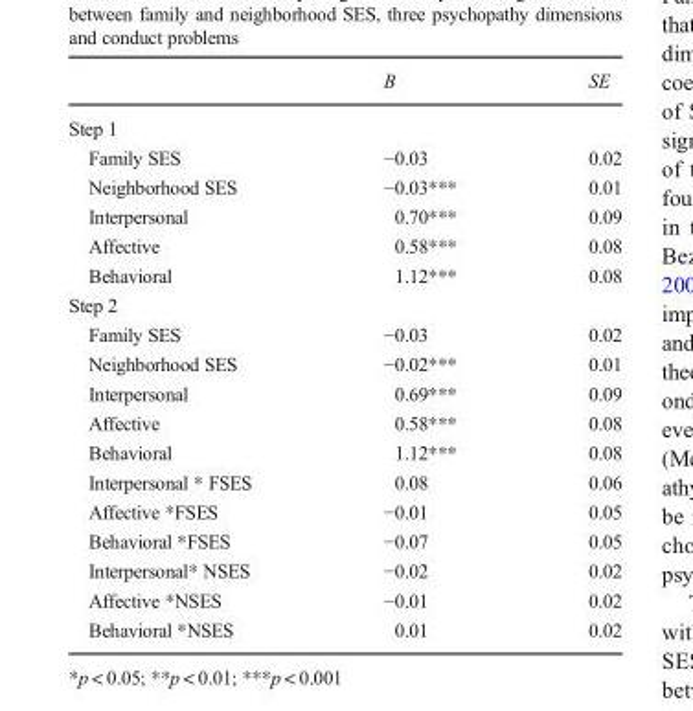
<table><thead><tr><td></td><td>B</td><td>SE</td></tr></thead><tbody><tr><td colspan="3">Step 1</td></tr><tr><td>Family SES</td><td>−0.03</td><td>0.02</td></tr><tr><td>Neighborhood SES</td><td>−0.03***</td><td>0.01</td></tr><tr><td>Interpersonal</td><td>0.70***</td><td>0.09</td></tr><tr><td>Affective</td><td>0.58***</td><td>0.08</td></tr><tr><td>Behavioral</td><td>1.12***</td><td>0.08</td></tr><tr><td colspan="3">Step 2</td></tr><tr><td>Family SES</td><td>−0.03</td><td>0.02</td></tr><tr><td>Neighborhood SES</td><td>−0.02***</td><td>0.01</td></tr><tr><td>Interpersonal</td><td>0.69***</td><td>0.09</td></tr><tr><td>Affective</td><td>0.58***</td><td>0.08</td></tr><tr><td>Behavioral</td><td>1.12***</td><td>0.08</td></tr><tr><td>Interpersonal * FSES</td><td>0.08</td><td>0.06</td></tr><tr><td>Affective *FSES</td><td>−0.01</td><td>0.05</td></tr><tr><td>Behavioral *FSES</td><td>−0.07</td><td>0.05</td></tr><tr><td>Interpersonal* NSES</td><td>−0.02</td><td>0.02</td></tr><tr><td>Affective *NSES</td><td>−0.01</td><td>0.02</td></tr><tr><td>Behavioral *NSES</td><td>0.01</td><td>0.02</td></tr></tbody></table>